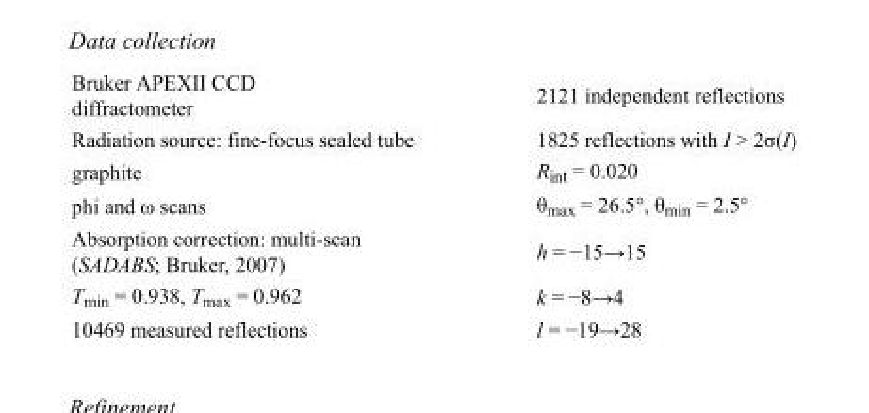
<table><tbody><tr><td>Bruker APEXII CCD diffractometer</td><td>2121 independent reflections</td></tr><tr><td>Radiation source: fine-focus sealed tube</td><td>1825 reflections with I &gt; 2σ(I)</td></tr><tr><td>graphite</td><td>R<sub>int</sub> = 0.020</td></tr><tr><td>phi and ω scans</td><td>θ<sub>max</sub> = 26.5°, θ<sub>min</sub> = 2.5°</td></tr><tr><td>Absorption correction: multi-scan (SADABS; Bruker, 2007)</td><td>h = −15→15</td></tr><tr><td>T<sub>min</sub> = 0.938, T<sub>max</sub> = 0.962</td><td>k = −8→4</td></tr><tr><td>10469 measured reflections</td><td>l = −19→28</td></tr></tbody></table>